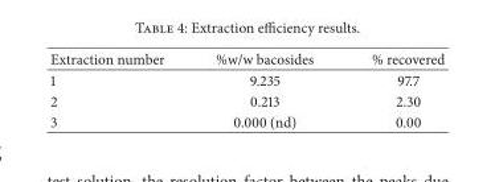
<table><thead><tr><td>Extraction number</td><td>%w/w bacosides</td><td>% recovered</td></tr></thead><tbody><tr><td>1</td><td>9.235</td><td>97.7</td></tr><tr><td>2</td><td>0.213</td><td>2.30</td></tr><tr><td>3</td><td>0.000 (nd)</td><td>0.00</td></tr></tbody></table>